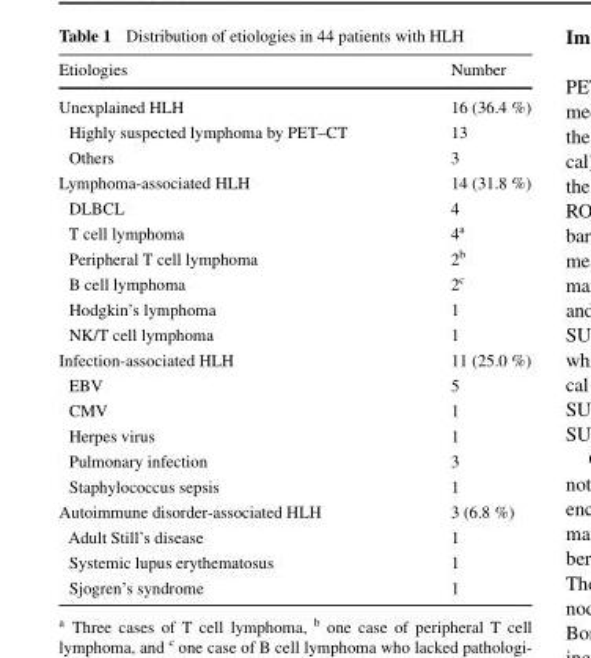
<table><thead><tr><td>Etiologies</td><td>Number</td></tr></thead><tbody><tr><td>Unexplained HLH</td><td>16 (36.4 %)</td></tr><tr><td>Highly suspected lymphoma by PET–CT</td><td>13</td></tr><tr><td>Others</td><td>3</td></tr><tr><td>Lymphoma-associated HLH</td><td>14 (31.8 %)</td></tr><tr><td>DLBCL</td><td>4</td></tr><tr><td>T cell lymphoma</td><td>4<sup>a</sup></td></tr><tr><td>Peripheral T cell lymphoma</td><td>2<sup>b</sup></td></tr><tr><td>B cell lymphoma</td><td>2<sup>c</sup></td></tr><tr><td>Hodgkin’s lymphoma</td><td>1</td></tr><tr><td>NK/T cell lymphoma</td><td>1</td></tr><tr><td>Infection-associated HLH</td><td>11 (25.0 %)</td></tr><tr><td>EBV</td><td>5</td></tr><tr><td>CMV</td><td>1</td></tr><tr><td>Herpes virus</td><td>1</td></tr><tr><td>Pulmonary infection</td><td>3</td></tr><tr><td>Staphylococcus sepsis</td><td>1</td></tr><tr><td>Autoimmune disorder-associated HLH</td><td>3 (6.8 %)</td></tr><tr><td>Adult Still’s disease</td><td>1</td></tr><tr><td>Systemic lupus erythematosus</td><td>1</td></tr><tr><td>Sjogren’s syndrome</td><td>1</td></tr></tbody></table>